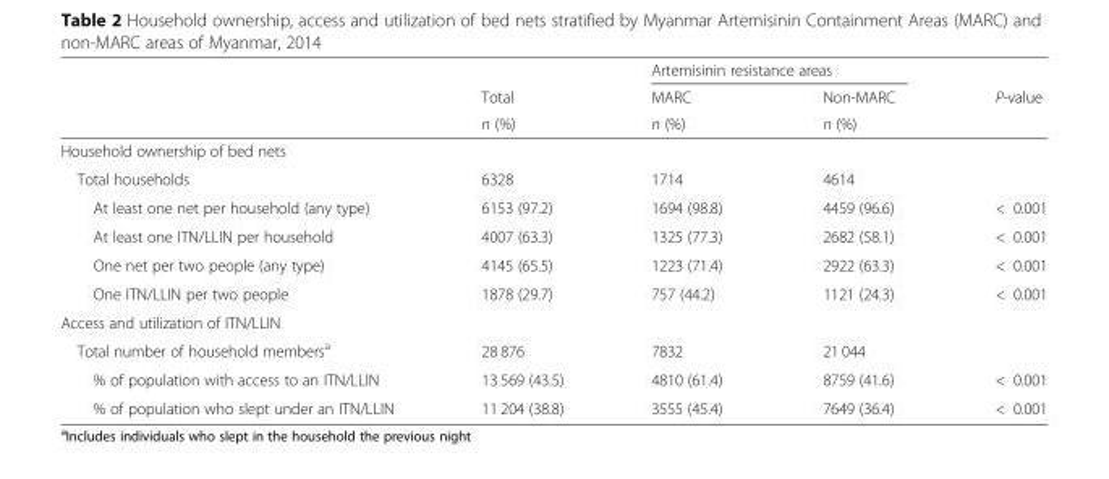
<table><thead><tr><td rowspan="3"></td><td rowspan="3">Total n (%)</td><td colspan="2">Artemisinin resistance areas</td><td rowspan="3">P-value</td></tr><tr><td rowspan="2">MARC n (%)</td><td rowspan="2">Non-MARC n (%)</td></tr><tr></tr></thead><tbody><tr><td colspan="5">Household ownership of bed nets</td></tr><tr><td>Total households</td><td>6328</td><td>1714</td><td>4614</td><td></td></tr><tr><td>At least one net per household (any type)</td><td>6153 (97.2)</td><td>1694 (98.8)</td><td>4459 (96.6)</td><td>&lt; 0.001</td></tr><tr><td>At least one ITN/LLIN per household</td><td>4007 (63.3)</td><td>1325 (77.3)</td><td>2682 (58.1)</td><td>&lt; 0.001</td></tr><tr><td>One net per two people (any type)</td><td>4145 (65.5)</td><td>1223 (71.4)</td><td>2922 (63.3)</td><td>&lt; 0.001</td></tr><tr><td>One ITN/LLIN per two people</td><td>1878 (29.7)</td><td>757 (44.2)</td><td>1121 (24.3)</td><td>&lt; 0.001</td></tr><tr><td colspan="5">Access and utilization of ITN/LLIN</td></tr><tr><td>Total number of household members<sup>a</sup></td><td>28 876</td><td>7832</td><td>21 044</td><td></td></tr><tr><td>% of population with access to an ITN/LLIN</td><td>13 569 (43.5)</td><td>4810 (61.4)</td><td>8759 (41.6)</td><td>&lt; 0.001</td></tr><tr><td>% of population who slept under an ITN/LLIN</td><td>11 204 (38.8)</td><td>3555 (45.4)</td><td>7649 (36.4)</td><td>&lt; 0.001</td></tr></tbody></table>